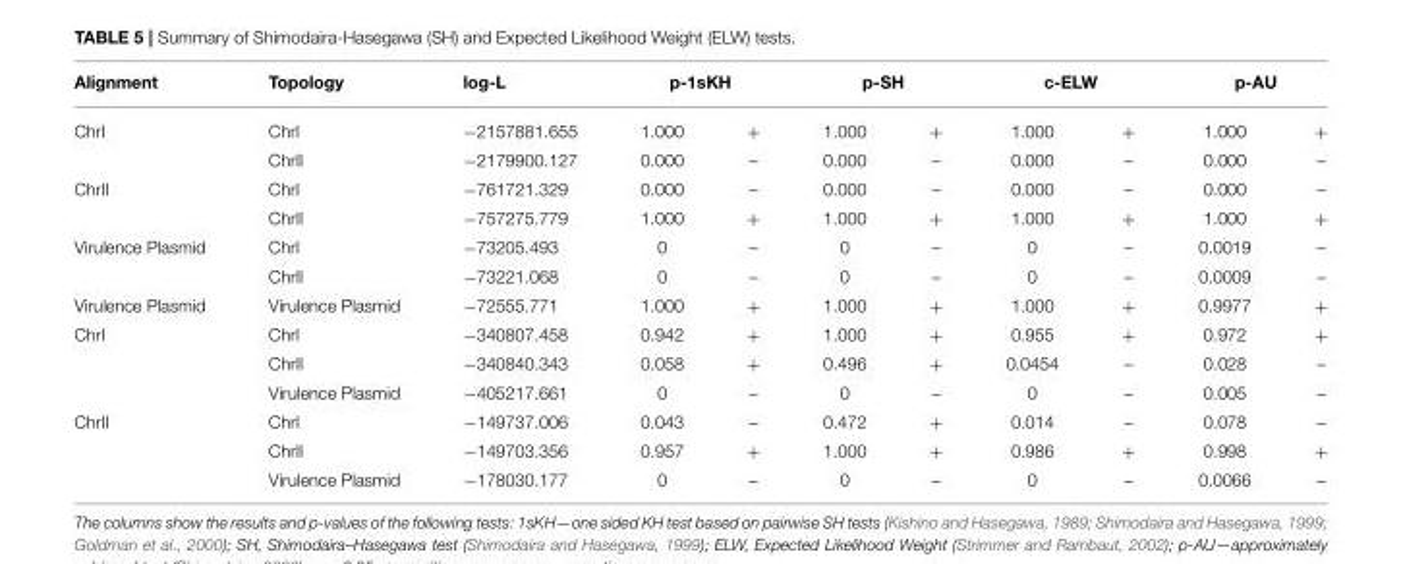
<table><thead><tr><td rowspan="2">Alignment ChrI</td><td rowspan="2">Topology ChrI</td><td rowspan="2">log-L −2157881.655</td><td colspan="2">p-1sKH</td><td colspan="2">p-SH</td><td colspan="2">c-ELW</td><td colspan="2">p-AU</td></tr><tr><td>1.000</td><td>+</td><td>1.000</td><td>+</td><td>1.000</td><td>+</td><td>1.000</td><td>+</td></tr></thead><tbody><tr><td></td><td>ChrII</td><td>−2179900.127</td><td>0.000</td><td>–</td><td>0.000</td><td>–</td><td>0.000</td><td>–</td><td>0.000</td><td>–</td></tr><tr><td rowspan="2">ChrII</td><td>ChrI</td><td>−761721.329</td><td>0.000</td><td>–</td><td>0.000</td><td>–</td><td>0.000</td><td>–</td><td>0.000</td><td>–</td></tr><tr><td>ChrII</td><td>−757275.779</td><td>1.000</td><td>+</td><td>1.000</td><td>+</td><td>1.000</td><td>+</td><td>1.000</td><td>+</td></tr><tr><td rowspan="2">Virulence Plasmid</td><td>ChrI</td><td>−73205.493</td><td>0</td><td>–</td><td>0</td><td>–</td><td>0</td><td>–</td><td>0.0019</td><td>–</td></tr><tr><td>ChrII</td><td>−73221.068</td><td>0</td><td>–</td><td>0</td><td>–</td><td>0</td><td>–</td><td>0.0009</td><td>–</td></tr><tr><td>Virulence Plasmid</td><td>Virulence Plasmid</td><td>−72555.771</td><td>1.000</td><td>+</td><td>1.000</td><td>+</td><td>1.000</td><td>+</td><td>0.9977</td><td>+</td></tr><tr><td rowspan="3">ChrI</td><td>ChrI</td><td>−340807.458</td><td>0.942</td><td>+</td><td>1.000</td><td>+</td><td>0.955</td><td>+</td><td>0.972</td><td>+</td></tr><tr><td>ChrII</td><td>−340840.343</td><td>0.058</td><td>+</td><td>0.496</td><td>+</td><td>0.0454</td><td>–</td><td>0.028</td><td>–</td></tr><tr><td>Virulence Plasmid</td><td>−405217.661</td><td>0</td><td>–</td><td>0</td><td>–</td><td>0</td><td>–</td><td>0.005</td><td>–</td></tr><tr><td rowspan="3">ChrII</td><td>ChrI</td><td>−149737.006</td><td>0.043</td><td>–</td><td>0.472</td><td>+</td><td>0.014</td><td>–</td><td>0.078</td><td>–</td></tr><tr><td>ChrII</td><td>−149703.356</td><td>0.957</td><td>+</td><td>1.000</td><td>+</td><td>0.986</td><td>+</td><td>0.998</td><td>+</td></tr><tr><td>Virulence Plasmid</td><td>−178030.177</td><td>0</td><td>–</td><td>0</td><td>–</td><td>0</td><td>–</td><td>0.0066</td><td>–</td></tr></tbody></table>